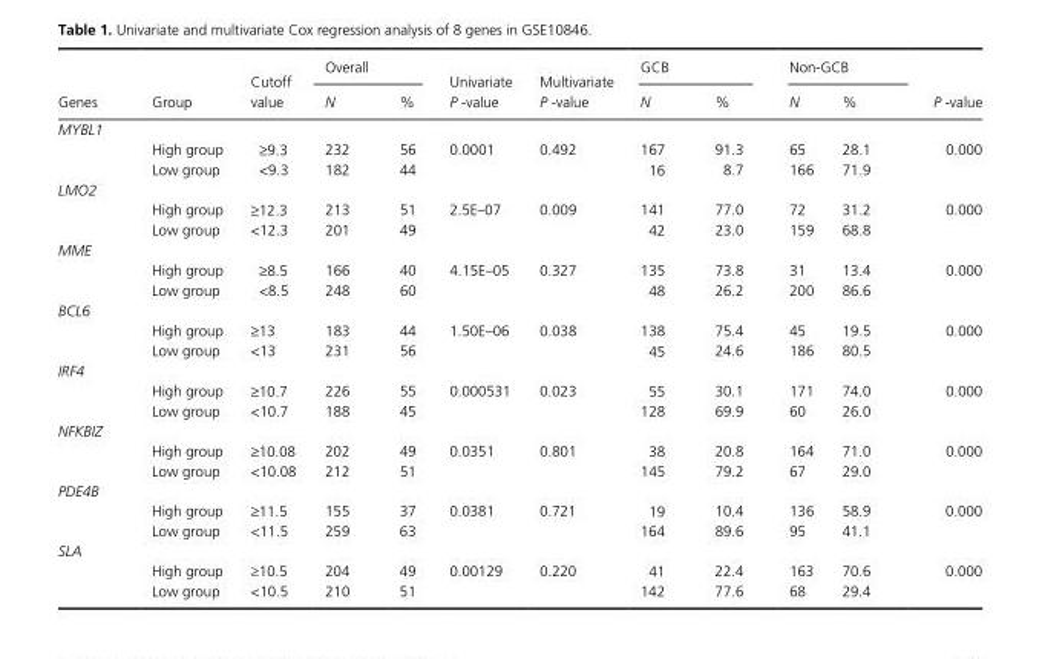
<table><thead><tr><td rowspan="2">Genes</td><td rowspan="2">Group</td><td rowspan="2">Cutoff value</td><td colspan="2">Overall</td><td rowspan="2">Univariate P - value</td><td rowspan="2">Multivariate P - value</td><td colspan="2">GCB</td><td colspan="2">Non- GCB</td><td rowspan="2">P - value</td></tr><tr><td>N</td><td>%</td><td>N</td><td>%</td><td>N</td><td>%</td></tr></thead><tbody><tr><td colspan="12">MYBL1</td></tr><tr><td></td><td>High group</td><td>≥9.3</td><td>232</td><td>56</td><td rowspan="2">0.0001</td><td rowspan="2">0.492</td><td>167</td><td>91.3</td><td>65</td><td>28.1</td><td rowspan="2">0.000</td></tr><tr><td></td><td>Low group</td><td>&lt;9.3</td><td>182</td><td>44</td><td>16</td><td>8.7</td><td>166</td><td>71.9</td></tr><tr><td colspan="12">LMO2</td></tr><tr><td></td><td>High group</td><td>≥12.3</td><td>213</td><td>51</td><td rowspan="2">2.5E–07</td><td rowspan="2">0.009</td><td>141</td><td>77.0</td><td>72</td><td>31.2</td><td rowspan="2">0.000</td></tr><tr><td></td><td>Low group</td><td>&lt;12.3</td><td>201</td><td>49</td><td>42</td><td>23.0</td><td>159</td><td>68.8</td></tr><tr><td colspan="12">MME</td></tr><tr><td></td><td>High group</td><td>≥8.5</td><td>166</td><td>40</td><td rowspan="2">4.15E–05</td><td rowspan="2">0.327</td><td>135</td><td>73.8</td><td>31</td><td>13.4</td><td rowspan="2">0.000</td></tr><tr><td></td><td>Low group</td><td>&lt;8.5</td><td>248</td><td>60</td><td>48</td><td>26.2</td><td>200</td><td>86.6</td></tr><tr><td colspan="12">BCL6</td></tr><tr><td></td><td>High group</td><td>≥13</td><td>183</td><td>44</td><td rowspan="2">1.50E–06</td><td rowspan="2">0.038</td><td>138</td><td>75.4</td><td>45</td><td>19.5</td><td rowspan="2">0.000</td></tr><tr><td></td><td>Low group</td><td>&lt;13</td><td>231</td><td>56</td><td>45</td><td>24.6</td><td>186</td><td>80.5</td></tr><tr><td colspan="12">IRF4</td></tr><tr><td></td><td>High group</td><td>≥10.7</td><td>226</td><td>55</td><td rowspan="2">0.000531</td><td rowspan="2">0.023</td><td>55</td><td>30.1</td><td>171</td><td>74.0</td><td rowspan="2">0.000</td></tr><tr><td></td><td>Low group</td><td>&lt;10.7</td><td>188</td><td>45</td><td>128</td><td>69.9</td><td>60</td><td>26.0</td></tr><tr><td colspan="12">NFKBIZ</td></tr><tr><td></td><td>High group</td><td>≥10.08</td><td>202</td><td>49</td><td rowspan="2">0.0351</td><td rowspan="2">0.801</td><td>38</td><td>20.8</td><td>164</td><td>71.0</td><td rowspan="2">0.000</td></tr><tr><td></td><td>Low group</td><td>&lt;10.08</td><td>212</td><td>51</td><td>145</td><td>79.2</td><td>67</td><td>29.0</td></tr><tr><td colspan="12">PDE4B</td></tr><tr><td></td><td>High group</td><td>≥11.5</td><td>155</td><td>37</td><td rowspan="2">0.0381</td><td rowspan="2">0.721</td><td>19</td><td>10.4</td><td>136</td><td>58.9</td><td rowspan="2">0.000</td></tr><tr><td></td><td>Low group</td><td>&lt;11.5</td><td>259</td><td>63</td><td>164</td><td>89.6</td><td>95</td><td>41.1</td></tr><tr><td colspan="12">SLA</td></tr><tr><td></td><td>High group</td><td>≥10.5</td><td>204</td><td>49</td><td rowspan="2">0.00129</td><td rowspan="2">0.220</td><td>41</td><td>22.4</td><td>163</td><td>70.6</td><td rowspan="2">0.000</td></tr><tr><td></td><td>Low group</td><td>&lt;10.5</td><td>210</td><td>51</td><td>142</td><td>77.6</td><td>68</td><td>29.4</td></tr></tbody></table>